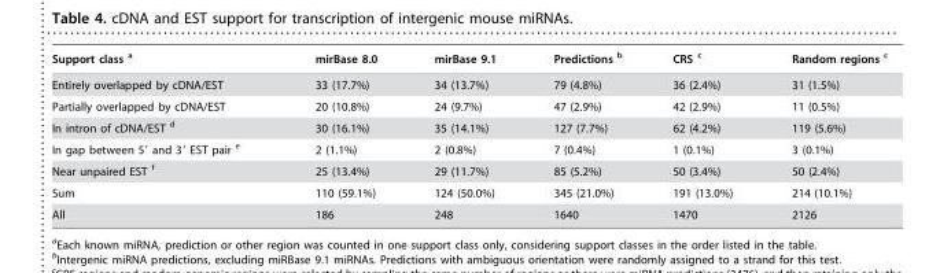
<table><thead><tr><td>Support class a</td><td>mirBase 8.0</td><td>mirBase 9.1</td><td>Predictions b</td><td>CRS c</td><td>Random regions c</td></tr></thead><tbody><tr><td>Entirely overlapped by cDNA/EST</td><td>33 (17.7%)</td><td>34 (13.7%)</td><td>79 (4.8%)</td><td>36 (2.4%)</td><td>31 (1.5%)</td></tr><tr><td>Partially overlapped by cDNA/EST</td><td>20 (10.8%)</td><td>24 (9.7%)</td><td>47 (2.9%)</td><td>42 (2.9%)</td><td>11 (0.5%)</td></tr><tr><td>In intron of cDNA/EST d</td><td>30 (16.1%)</td><td>35 (14.1%)</td><td>127 (7.7%)</td><td>62 (4.2%)</td><td>119 (5.6%)</td></tr><tr><td>In gap between 5′ and 3′ EST pair e</td><td>2 (1.1%)</td><td>2 (0.8%)</td><td>7 (0.4%)</td><td>1 (0.1%)</td><td>3 (0.1%)</td></tr><tr><td>Near unpaired EST f</td><td>25 (13.4%)</td><td>29 (11.7%)</td><td>85 (5.2%)</td><td>50 (3.4%)</td><td>50 (2.4%)</td></tr><tr><td>Sum</td><td>110 (59.1%)</td><td>124 (50.0%)</td><td>345 (21.0%)</td><td>191 (13.0%)</td><td>214 (10.1%)</td></tr><tr><td>All</td><td>186</td><td>248</td><td>1640</td><td>1470</td><td>2126</td></tr></tbody></table>